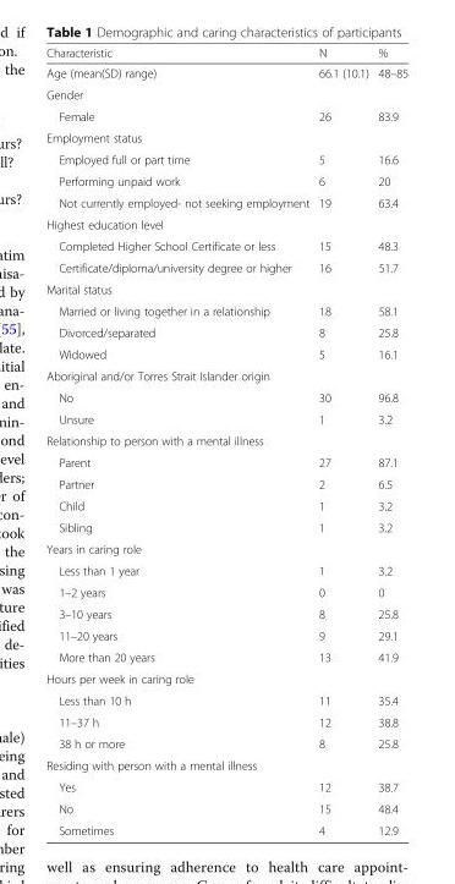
<table><thead><tr><td>Characteristic</td><td>N</td><td>%</td></tr></thead><tbody><tr><td>Age (mean(SD) range)</td><td>66.1 (10.1)</td><td>48–85</td></tr><tr><td colspan="3">Gender</td></tr><tr><td>Female</td><td>26</td><td>83.9</td></tr><tr><td colspan="3">Employment status</td></tr><tr><td>Employed full or part time</td><td>5</td><td>16.6</td></tr><tr><td>Performing unpaid work</td><td>6</td><td>20</td></tr><tr><td>Not currently employed- not seeking employment</td><td>19</td><td>63.4</td></tr><tr><td colspan="3">Highest education level</td></tr><tr><td>Completed Higher School Certificate or less</td><td>15</td><td>48.3</td></tr><tr><td>Certificate/diploma/university degree or higher</td><td>16</td><td>51.7</td></tr><tr><td colspan="3">Marital status</td></tr><tr><td>Married or living together in a relationship</td><td>18</td><td>58.1</td></tr><tr><td>Divorced/separated</td><td>8</td><td>25.8</td></tr><tr><td>Widowed</td><td>5</td><td>16.1</td></tr><tr><td colspan="3">Aboriginal and/or Torres Strait Islander origin</td></tr><tr><td>No</td><td>30</td><td>96.8</td></tr><tr><td>Unsure</td><td>1</td><td>3.2</td></tr><tr><td colspan="3">Relationship to person with a mental illness</td></tr><tr><td>Parent</td><td>27</td><td>87.1</td></tr><tr><td>Partner</td><td>2</td><td>6.5</td></tr><tr><td>Child</td><td>1</td><td>3.2</td></tr><tr><td>Sibling</td><td>1</td><td>3.2</td></tr><tr><td colspan="3">Years in caring role</td></tr><tr><td>Less than 1 year</td><td>1</td><td>3.2</td></tr><tr><td>1–2 years</td><td>0</td><td>0</td></tr><tr><td>3–10 years</td><td>8</td><td>25.8</td></tr><tr><td>11–20 years</td><td>9</td><td>29.1</td></tr><tr><td>More than 20 years</td><td>13</td><td>41.9</td></tr><tr><td colspan="3">Hours per week in caring role</td></tr><tr><td>Less than 10 h</td><td>11</td><td>35.4</td></tr><tr><td>11–37 h</td><td>12</td><td>38.8</td></tr><tr><td>38 h or more</td><td>8</td><td>25.8</td></tr><tr><td colspan="3">Residing with person with a mental illness</td></tr><tr><td>Yes</td><td>12</td><td>38.7</td></tr><tr><td>No</td><td>15</td><td>48.4</td></tr><tr><td>Sometimes</td><td>4</td><td>12.9</td></tr></tbody></table>